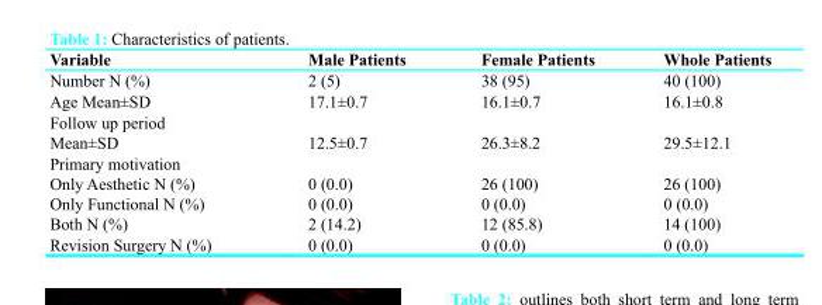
<table><thead><tr><td>Variable</td><td>Male Patients</td><td>Female Patients</td><td>Whole Patients</td></tr></thead><tbody><tr><td>Number N (%)</td><td>2 (5)</td><td>38 (95)</td><td>40 (100)</td></tr><tr><td>Age Mean±SD</td><td>17.1±0.7</td><td>16.1±0.7</td><td>16.1±0.8</td></tr><tr><td>Follow up period Mean±SD</td><td>12.5±0.7</td><td>26.3±8.2</td><td>29.5±12.1</td></tr><tr><td colspan="4">Primary motivation</td></tr><tr><td>Only Aesthetic N (%) Only Functional N (%) Both N (%)</td><td>0 (0.0) 0 (0.0) 2 (14.2)</td><td>26 (100) 0 (0.0) 12 (85.8)</td><td>26 (100) 0 (0.0) 14 (100)</td></tr><tr><td>Revision Surgery N (%)</td><td>0 (0.0)</td><td>0 (0.0)</td><td>0 (0.0)</td></tr></tbody></table>